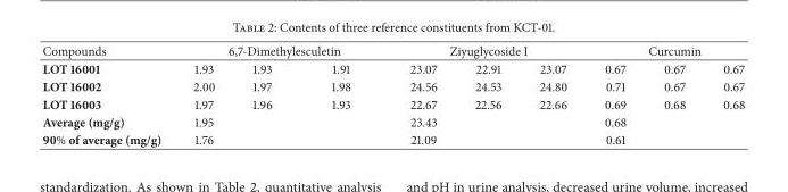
<table><thead><tr><td rowspan="2">Compounds LOT 16001</td><td colspan="3">6,7-Dimethylesculetin</td><td colspan="3">Ziyuglycoside I</td><td colspan="3">Curcumin</td></tr><tr><td>1.93</td><td>1.93</td><td>1.91</td><td>23.07</td><td>22.91</td><td>23.07</td><td>0.67</td><td>0.67</td><td>0.67</td></tr></thead><tbody><tr><td>LOT 16002</td><td>2.00</td><td>1.97</td><td>1.98</td><td>24.56</td><td>24.53</td><td>24.80</td><td>0.71</td><td>0.67</td><td>0.67</td></tr><tr><td>LOT 16003</td><td>1.97</td><td>1.96</td><td>1.93</td><td>22.67</td><td>22.56</td><td>22.66</td><td>0.69</td><td>0.68</td><td>0.68</td></tr><tr><td>Average (mg/g)</td><td>1.95</td><td></td><td></td><td>23.43</td><td></td><td></td><td>0.68</td><td></td><td></td></tr><tr><td>90% of average (mg/g)</td><td>1.76</td><td></td><td></td><td>21.09</td><td></td><td></td><td>0.61</td><td></td><td></td></tr></tbody></table>